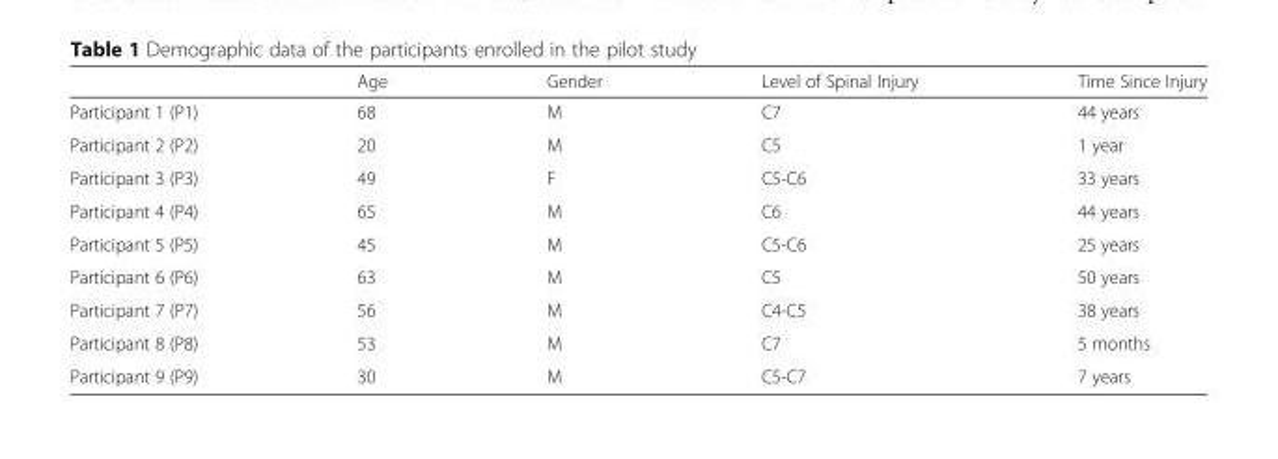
<table><thead><tr><td></td><td>Age</td><td>Gender</td><td>Level of Spinal Injury</td><td>Time Since Injury</td></tr></thead><tbody><tr><td>Participant 1 (P1)</td><td>68</td><td>M</td><td>C7</td><td>44 years</td></tr><tr><td>Participant 2 (P2)</td><td>20</td><td>M</td><td>C5</td><td>1 year</td></tr><tr><td>Participant 3 (P3)</td><td>49</td><td>F</td><td>C5-C6</td><td>33 years</td></tr><tr><td>Participant 4 (P4)</td><td>65</td><td>M</td><td>C6</td><td>44 years</td></tr><tr><td>Participant 5 (P5)</td><td>45</td><td>M</td><td>C5-C6</td><td>25 years</td></tr><tr><td>Participant 6 (P6)</td><td>63</td><td>M</td><td>C5</td><td>50 years</td></tr><tr><td>Participant 7 (P7)</td><td>56</td><td>M</td><td>C4-C5</td><td>38 years</td></tr><tr><td>Participant 8 (P8)</td><td>53</td><td>M</td><td>C7</td><td>5 months</td></tr><tr><td>Participant 9 (P9)</td><td>30</td><td>M</td><td>C5-C7</td><td>7 years</td></tr></tbody></table>